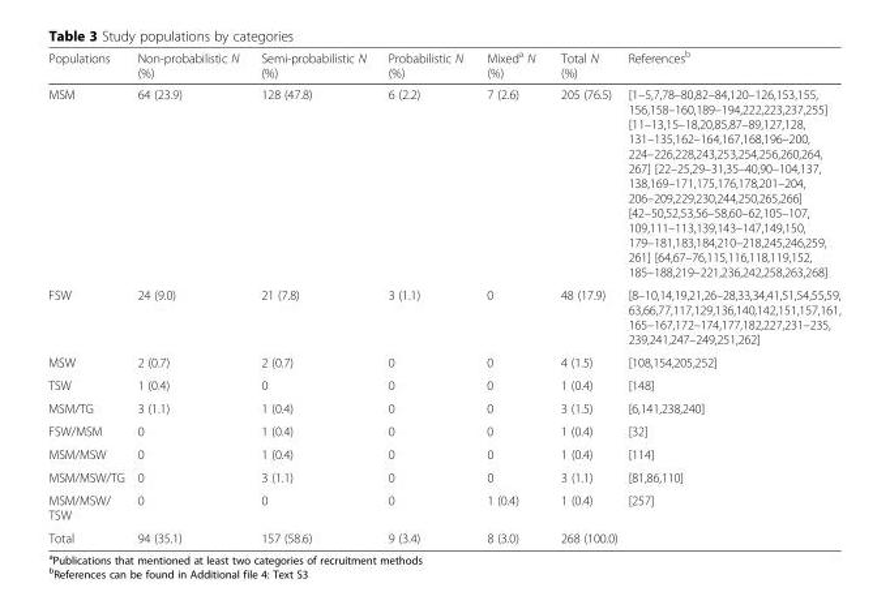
<table><thead><tr><td>Populations</td><td>Non-probabilistic N (%)</td><td>Semi-probabilistic N (%)</td><td>Probabilistic N (%)</td><td>Mixed<sup>a</sup> N (%)</td><td>Total N (%)</td><td>References<sup>b</sup></td></tr></thead><tbody><tr><td>MSM</td><td>64 (23.9)</td><td>128 (47.8)</td><td>6 (2.2)</td><td>7 (2.6)</td><td>205 (76.5)</td><td>[1–5,7,78–80,82–84,120–126,153,155, 156,158–160,189–194,222,223,237,255] [11–13,15–18,20,85,87–89,127,128, 131–135,162–164,167,168,196–200, 224–226,228,243,253,254,256,260,264, 267] [22–25,29–31,35–40,90–104,137, 138,169–171,175,176,178,201–204, 206–209,229,230,244,250,265,266] [42–50,52,53,56–58,60–62,105–107, 109,111–113,139,143–147,149,150, 179–181,183,184,210–218,245,246,259, 261] [64,67–76,115,116,118,119,152, 185–188,219–221,236,242,258,263,268]</td></tr><tr><td>FSW</td><td>24 (9.0)</td><td>21 (7.8)</td><td>3 (1.1)</td><td>0</td><td>48 (17.9)</td><td>[8–10,14,19,21,26–28,33,34,41,51,54,55,59, 63,66,77,117,129,136,140,142,151,157,161, 165–167,172–174,177,182,227,231–235, 239,241,247–249,251,262]</td></tr><tr><td>MSW</td><td>2 (0.7)</td><td>2 (0.7)</td><td>0</td><td>0</td><td>4 (1.5)</td><td>[108,154,205,252]</td></tr><tr><td>TSW</td><td>1 (0.4)</td><td>0</td><td>0</td><td>0</td><td>1 (0.4)</td><td>[148]</td></tr><tr><td>MSM/TG</td><td>3 (1.1)</td><td>1 (0.4)</td><td>0</td><td>0</td><td>3 (1.5)</td><td>[6,141,238,240]</td></tr><tr><td>FSW/MSM</td><td>0</td><td>1 (0.4)</td><td>0</td><td>0</td><td>1 (0.4)</td><td>[32]</td></tr><tr><td>MSM/MSW</td><td>0</td><td>1 (0.4)</td><td>0</td><td>0</td><td>1 (0.4)</td><td>[114]</td></tr><tr><td>MSM/MSW/TG</td><td>0</td><td>3 (1.1)</td><td>0</td><td>0</td><td>3 (1.1)</td><td>[81,86,110]</td></tr><tr><td>MSM/MSW/ TSW</td><td>0</td><td>0</td><td>0</td><td>1 (0.4)</td><td>1 (0.4)</td><td>[257]</td></tr><tr><td>Total</td><td>94 (35.1)</td><td>157 (58.6)</td><td>9 (3.4)</td><td>8 (3.0)</td><td>268 (100.0)</td><td></td></tr></tbody></table>